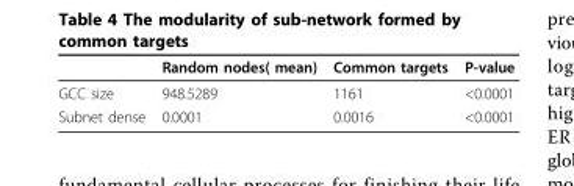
<table><thead><tr><td></td><td>Random nodes( mean)</td><td>Common targets</td><td>P-value</td></tr></thead><tbody><tr><td>GCC size</td><td>948.5289</td><td>1161</td><td>&lt;0.0001</td></tr><tr><td>Subnet dense</td><td>0.0001</td><td>0.0016</td><td>&lt;0.0001</td></tr></tbody></table>